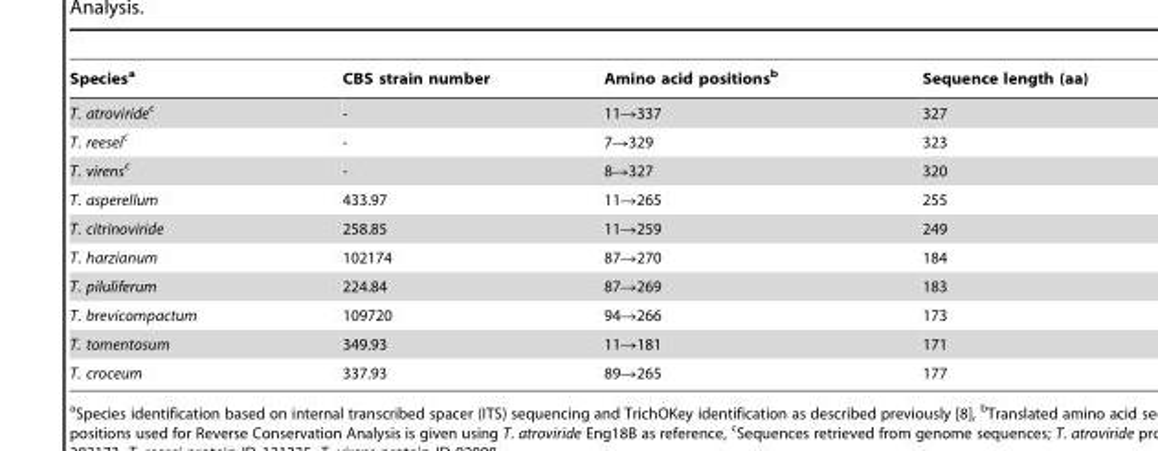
<table><thead><tr><td>Species<sup>a</sup></td><td>CBS strain number</td><td>Amino acid positions<sup>b</sup></td><td>Sequence length (aa)</td></tr></thead><tbody><tr><td>T. atroviride<sup>c</sup></td><td>-</td><td>11→337</td><td>327</td></tr><tr><td>T. reesei<sup>c</sup></td><td>-</td><td>7→329</td><td>323</td></tr><tr><td>T. virens<sup>c</sup></td><td>-</td><td>8→327</td><td>320</td></tr><tr><td>T. asperellum</td><td>433.97</td><td>11→265</td><td>255</td></tr><tr><td>T. citrinoviride</td><td>258.85</td><td>11→259</td><td>249</td></tr><tr><td>T. harzianum</td><td>102174</td><td>87→270</td><td>184</td></tr><tr><td>T. piluliferum</td><td>224.84</td><td>87→269</td><td>183</td></tr><tr><td>T. brevicompactum</td><td>109720</td><td>94→266</td><td>173</td></tr><tr><td>T. tomentosum</td><td>349.93</td><td>11→181</td><td>171</td></tr><tr><td>T. croceum</td><td>337.93</td><td>89→265</td><td>177</td></tr></tbody></table>